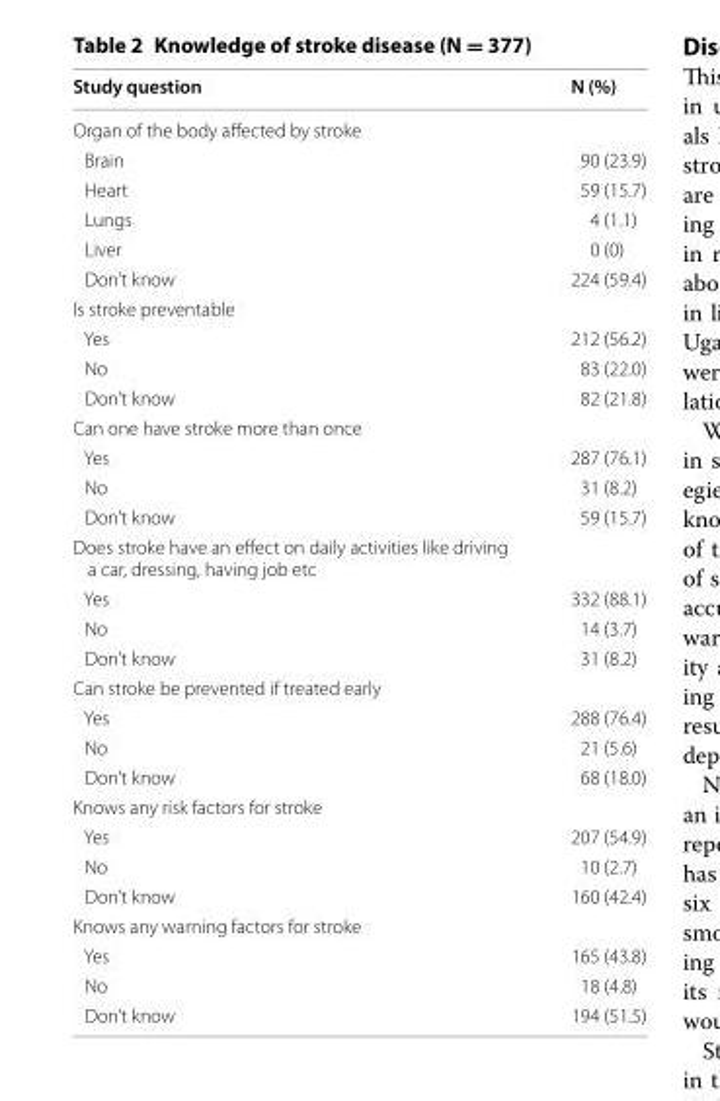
<table><thead><tr><td>Study question</td><td>N (%)</td></tr></thead><tbody><tr><td colspan="2">Organ of the body affected by stroke</td></tr><tr><td>Brain</td><td>90 (23.9)</td></tr><tr><td>Heart</td><td>59 (15.7)</td></tr><tr><td>Lungs</td><td>4 (1.1)</td></tr><tr><td>Liver</td><td>0 (0)</td></tr><tr><td>Don’t know</td><td>224 (59.4)</td></tr><tr><td colspan="2">Is stroke preventable</td></tr><tr><td>Yes</td><td>212 (56.2)</td></tr><tr><td>No</td><td>83 (22.0)</td></tr><tr><td>Don’t know</td><td>82 (21.8)</td></tr><tr><td colspan="2">Can one have stroke more than once</td></tr><tr><td>Yes</td><td>287 (76.1)</td></tr><tr><td>No</td><td>31 (8.2)</td></tr><tr><td>Don’t know</td><td>59 (15.7)</td></tr><tr><td colspan="2">Does stroke have an effect on daily activities like driving a car, dressing, having job etc</td></tr><tr><td>Yes</td><td>332 (88.1)</td></tr><tr><td>No</td><td>14 (3.7)</td></tr><tr><td>Don’t know</td><td>31 (8.2)</td></tr><tr><td colspan="2">Can stroke be prevented if treated early</td></tr><tr><td>Yes</td><td>288 (76.4)</td></tr><tr><td>No</td><td>21 (5.6)</td></tr><tr><td>Don’t know</td><td>68 (18.0)</td></tr><tr><td colspan="2">Knows any risk factors for stroke</td></tr><tr><td>Yes</td><td>207 (54.9)</td></tr><tr><td>No</td><td>10 (2.7)</td></tr><tr><td>Don’t know</td><td>160 (42.4)</td></tr><tr><td colspan="2">Knows any warning factors for stroke</td></tr><tr><td>Yes</td><td>165 (43.8)</td></tr><tr><td>No</td><td>18 (4.8)</td></tr><tr><td>Don’t know</td><td>194 (51.5)</td></tr></tbody></table>